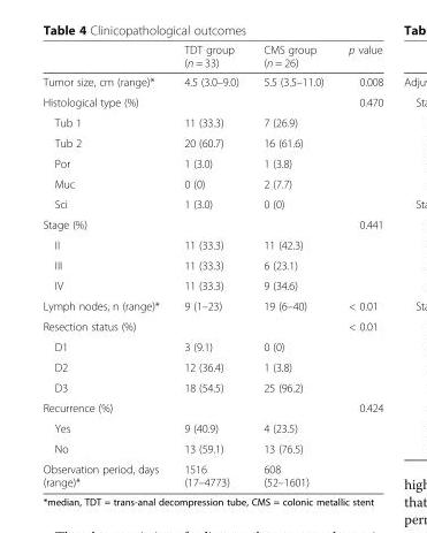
<table><thead><tr><td></td><td>TDT group (n = 33)</td><td>CMS group (n = 26)</td><td>p value</td></tr></thead><tbody><tr><td>Tumor size, cm (range)*</td><td>4.5 (3.0–9.0)</td><td>5.5 (3.5–11.0)</td><td>0.008</td></tr><tr><td colspan="3">Histological type (%)</td><td>0.470</td></tr><tr><td>Tub 1</td><td>11 (33.3)</td><td>7 (26.9)</td><td></td></tr><tr><td>Tub 2</td><td>20 (60.7)</td><td>16 (61.6)</td><td></td></tr><tr><td>Por</td><td>1 (3.0)</td><td>1 (3.8)</td><td></td></tr><tr><td>Muc</td><td>0 (0)</td><td>2 (7.7)</td><td></td></tr><tr><td>Sci</td><td>1 (3.0)</td><td>0 (0)</td><td></td></tr><tr><td colspan="3">Stage (%)</td><td>0.441</td></tr><tr><td>II</td><td>11 (33.3)</td><td>11 (42.3)</td><td></td></tr><tr><td>III</td><td>11 (33.3)</td><td>6 (23.1)</td><td></td></tr><tr><td>IV</td><td>11 (33.3)</td><td>9 (34.6)</td><td></td></tr><tr><td>Lymph nodes, n (range)*</td><td>9 (1–23)</td><td>19 (6–40)</td><td>&lt; 0.01</td></tr><tr><td colspan="3">Resection status (%)</td><td>&lt; 0.01</td></tr><tr><td>D1</td><td>3 (9.1)</td><td>0 (0)</td><td></td></tr><tr><td>D2</td><td>12 (36.4)</td><td>1 (3.8)</td><td></td></tr><tr><td>D3</td><td>18 (54.5)</td><td>25 (96.2)</td><td></td></tr><tr><td colspan="3">Recurrence (%)</td><td>0.424</td></tr><tr><td>Yes</td><td>9 (40.9)</td><td>4 (23.5)</td><td></td></tr><tr><td>No</td><td>13 (59.1)</td><td>13 (76.5)</td><td></td></tr><tr><td>Observation period, days (range)*</td><td>1516 (17–4773)</td><td>608 (52–1601)</td><td></td></tr></tbody></table>